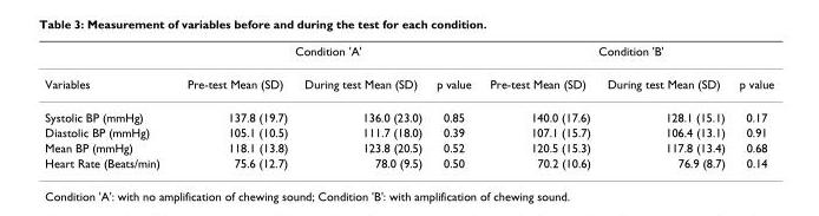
<table><thead><tr><td rowspan="2">Variables</td><td colspan="3">Condition &#x27;A&#x27;</td><td colspan="3">Condition &#x27;B&#x27;</td></tr><tr><td>Pre-test Mean (SD)</td><td>During test Mean (SD)</td><td>p value</td><td>Pre-test Mean (SD)</td><td>During test Mean (SD)</td><td>p value</td></tr></thead><tbody><tr><td>Systolic BP (mmHg)</td><td>137.8 (19.7)</td><td>136.0 (23.0)</td><td>0.85</td><td>140.0 (17.6)</td><td>128.1 (15.1)</td><td>0.17</td></tr><tr><td>Diastolic BP (mmHg)</td><td>105.1 (10.5)</td><td>111.7 (18.0)</td><td>0.39</td><td>107.1 (15.7)</td><td>106.4 (13.1)</td><td>0.91</td></tr><tr><td>Mean BP (mmHg)</td><td>118.1 (13.8)</td><td>123.8 (20.5)</td><td>0.52</td><td>120.5 (15.3)</td><td>117.8 (13.4)</td><td>0.68</td></tr><tr><td>Heart Rate (Beats/min)</td><td>75.6 (12.7)</td><td>78.0 (9.5)</td><td>0.50</td><td>70.2 (10.6)</td><td>76.9 (8.7)</td><td>0.14</td></tr></tbody></table>